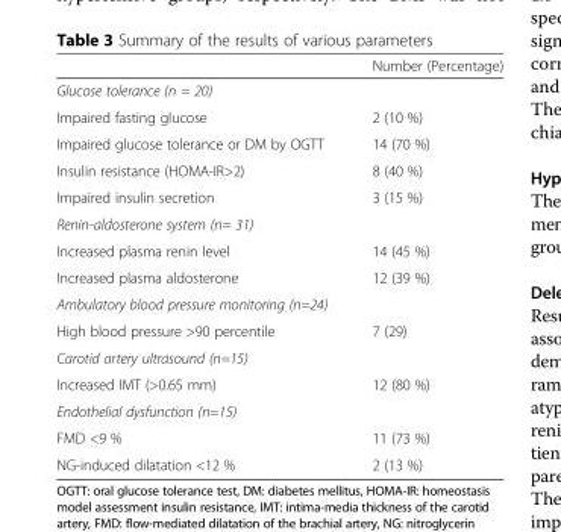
<table><thead><tr><td></td><td>Number (Percentage)</td></tr></thead><tbody><tr><td colspan="2">Glucose tolerance (n = 20)</td></tr><tr><td>Impaired fasting glucose</td><td>2 (10 %)</td></tr><tr><td>Impaired glucose tolerance or DM by OGTT</td><td>14 (70 %)</td></tr><tr><td>Insulin resistance (HOMA-IR&gt;2)</td><td>8 (40 %)</td></tr><tr><td>Impaired insulin secretion</td><td>3 (15 %)</td></tr><tr><td colspan="2">Renin-aldosterone system (n= 31)</td></tr><tr><td>Increased plasma renin level</td><td>14 (45 %)</td></tr><tr><td>Increased plasma aldosterone</td><td>12 (39 %)</td></tr><tr><td colspan="2">Ambulatory blood pressure monitoring (n=24)</td></tr><tr><td>High blood pressure &gt;90 percentile</td><td>7 (29)</td></tr><tr><td colspan="2">Carotid artery ultrasound (n=15)</td></tr><tr><td>Increased IMT (&gt;0.65 mm)</td><td>12 (80 %)</td></tr><tr><td colspan="2">Endothelial dysfunction (n=15)</td></tr><tr><td>FMD &lt;9 %</td><td>11 (73 %)</td></tr><tr><td>NG-induced dilatation &lt;12 %</td><td>2 (13 %)</td></tr></tbody></table>